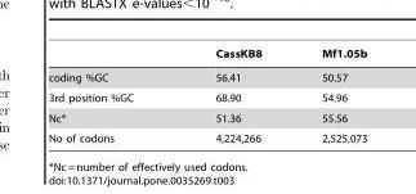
<table><thead><tr><td></td><td>CassKB8</td><td>Mf1.05b</td></tr></thead><tbody><tr><td>coding %GC</td><td>56.41</td><td>50.57</td></tr><tr><td>3rd position %GC</td><td>68.90</td><td>54.96</td></tr><tr><td>Nc*</td><td>51.36</td><td>55.56</td></tr><tr><td>No of codons</td><td>4,224,266</td><td>2,525,073</td></tr></tbody></table>